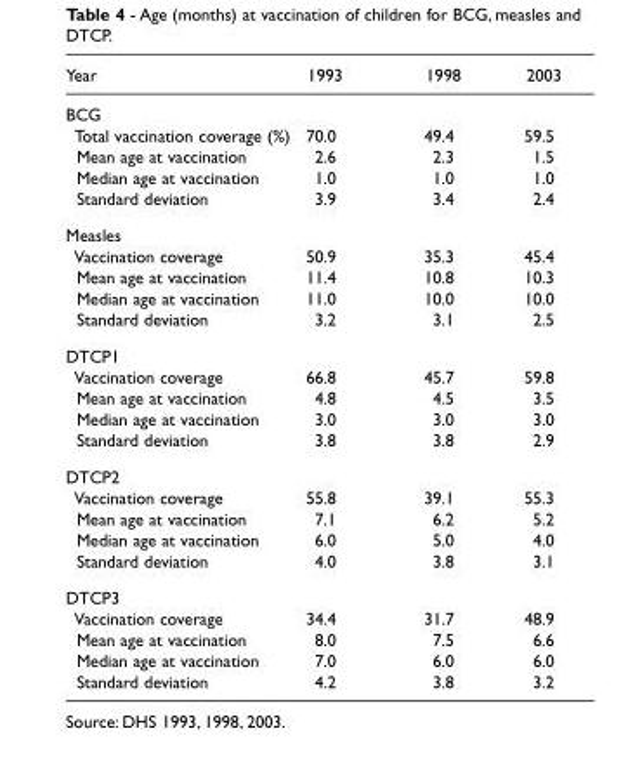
<table><thead><tr><td>Year</td><td>1993</td><td>1998</td><td>2003</td></tr></thead><tbody><tr><td colspan="4">BCG</td></tr><tr><td>Total vaccination coverage (%)</td><td>70.0</td><td>49.4</td><td>59.5</td></tr><tr><td>Mean age at vaccination</td><td>2.6</td><td>2.3</td><td>1.5</td></tr><tr><td>Median age at vaccination</td><td>1.0</td><td>1.0</td><td>1.0</td></tr><tr><td>Standard deviation</td><td>3.9</td><td>3.4</td><td>2.4</td></tr><tr><td colspan="4">Measles</td></tr><tr><td>Vaccination coverage</td><td>50.9</td><td>35.3</td><td>45.4</td></tr><tr><td>Mean age at vaccination</td><td>11.4</td><td>10.8</td><td>10.3</td></tr><tr><td>Median age at vaccination</td><td>11.0</td><td>10.0</td><td>10.0</td></tr><tr><td>Standard deviation</td><td>3.2</td><td>3.1</td><td>2.5</td></tr><tr><td colspan="4">DTCP1</td></tr><tr><td>Vaccination coverage</td><td>66.8</td><td>45.7</td><td>59.8</td></tr><tr><td>Mean age at vaccination</td><td>4.8</td><td>4.5</td><td>3.5</td></tr><tr><td>Median age at vaccination</td><td>3.0</td><td>3.0</td><td>3.0</td></tr><tr><td>Standard deviation</td><td>3.8</td><td>3.8</td><td>2.9</td></tr><tr><td colspan="4">DTCP2</td></tr><tr><td>Vaccination coverage</td><td>55.8</td><td>39.1</td><td>55.3</td></tr><tr><td>Mean age at vaccination</td><td>7.1</td><td>6.2</td><td>5.2</td></tr><tr><td>Median age at vaccination</td><td>6.0</td><td>5.0</td><td>4.0</td></tr><tr><td>Standard deviation</td><td>4.0</td><td>3.8</td><td>3.1</td></tr><tr><td colspan="4">DTCP3</td></tr><tr><td>Vaccination coverage</td><td>34.4</td><td>31.7</td><td>48.9</td></tr><tr><td>Mean age at vaccination</td><td>8.0</td><td>7.5</td><td>6.6</td></tr><tr><td>Median age at vaccination</td><td>7.0</td><td>6.0</td><td>6.0</td></tr><tr><td>Standard deviation</td><td>4.2</td><td>3.8</td><td>3.2</td></tr></tbody></table>